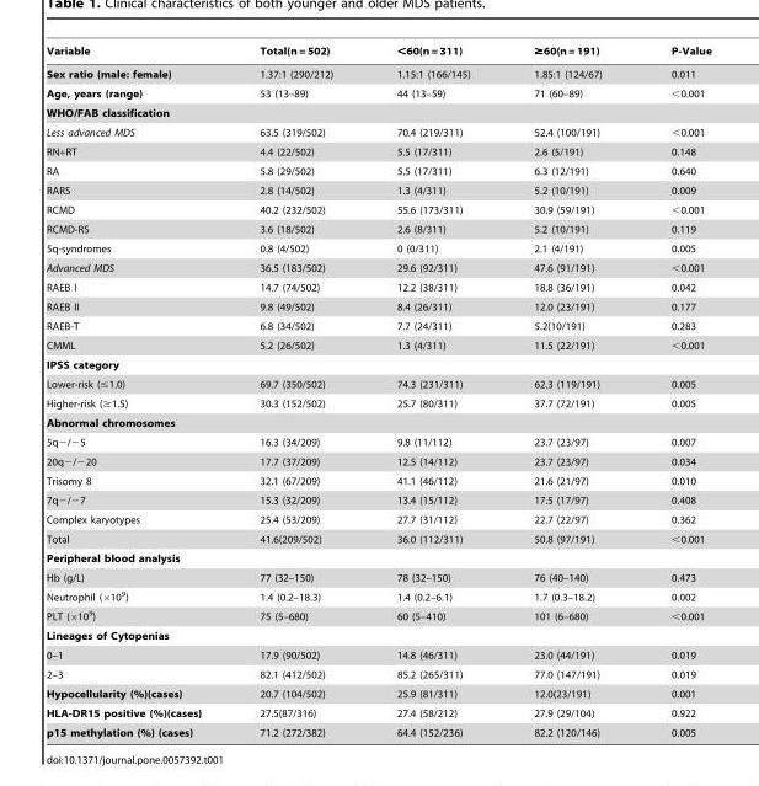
<table><thead><tr><td>Variable</td><td>Total(n = 502)</td><td>&lt;60(n = 311)</td><td>≥60(n = 191)</td><td>P-Value</td></tr></thead><tbody><tr><td>Sex ratio (male: female)</td><td>1.37:1 (290/212)</td><td>1.15:1 (166/145)</td><td>1.85:1 (124/67)</td><td>0.011</td></tr><tr><td>Age, years (range)</td><td>53 (13–89)</td><td>44 (13–59)</td><td>71 (60–89)</td><td>&lt;0.001</td></tr><tr><td colspan="5">WHO/FAB classification</td></tr><tr><td>Less advanced MDS</td><td>63.5 (319/502)</td><td>70.4 (219/311)</td><td>52.4 (100/191)</td><td>&lt;0.001</td></tr><tr><td>RN+RT</td><td>4.4 (22/502)</td><td>5.5 (17/311)</td><td>2.6 (5/191)</td><td>0.148</td></tr><tr><td>RA</td><td>5.8 (29/502)</td><td>5.5 (17/311)</td><td>6.3 (12/191)</td><td>0.640</td></tr><tr><td>RARS</td><td>2.8 (14/502)</td><td>1.3 (4/311)</td><td>5.2 (10/191)</td><td>0.009</td></tr><tr><td>RCMD</td><td>40.2 (232/502)</td><td>55.6 (173/311)</td><td>30.9 (59/191)</td><td>&lt;0.001</td></tr><tr><td>RCMD-RS</td><td>3.6 (18/502)</td><td>2.6 (8/311)</td><td>5.2 (10/191)</td><td>0.119</td></tr><tr><td>5q-syndromes</td><td>0.8 (4/502)</td><td>0 (0/311)</td><td>2.1 (4/191)</td><td>0.005</td></tr><tr><td>Advanced MDS</td><td>36.5 (183/502)</td><td>29.6 (92/311)</td><td>47.6 (91/191)</td><td>&lt;0.001</td></tr><tr><td>RAEB I</td><td>14.7 (74/502)</td><td>12.2 (38/311)</td><td>18.8 (36/191)</td><td>0.042</td></tr><tr><td>RAEB II</td><td>9.8 (49/502)</td><td>8.4 (26/311)</td><td>12.0 (23/191)</td><td>0.177</td></tr><tr><td>RAEB-T</td><td>6.8 (34/502)</td><td>7.7 (24/311)</td><td>5.2(10/191)</td><td>0.283</td></tr><tr><td>CMML</td><td>5.2 (26/502)</td><td>1.3 (4/311)</td><td>11.5 (22/191)</td><td>&lt;0.001</td></tr><tr><td colspan="5">IPSS category</td></tr><tr><td>Lower-risk (≤1.0)</td><td>69.7 (350/502)</td><td>74.3 (231/311)</td><td>62.3 (119/191)</td><td>0.005</td></tr><tr><td>Higher-risk (≥1.5)</td><td>30.3 (152/502)</td><td>25.7 (80/311)</td><td>37.7 (72/191)</td><td>0.005</td></tr><tr><td colspan="5">Abnormal chromosomes</td></tr><tr><td>5q−/−5</td><td>16.3 (34/209)</td><td>9.8 (11/112)</td><td>23.7 (23/97)</td><td>0.007</td></tr><tr><td>20q−/−20</td><td>17.7 (37/209)</td><td>12.5 (14/112)</td><td>23.7 (23/97)</td><td>0.034</td></tr><tr><td>Trisomy 8</td><td>32.1 (67/209)</td><td>41.1 (46/112)</td><td>21.6 (21/97)</td><td>0.010</td></tr><tr><td>7q−/−7</td><td>15.3 (32/209)</td><td>13.4 (15/112)</td><td>17.5 (17/97)</td><td>0.408</td></tr><tr><td>Complex karyotypes</td><td>25.4 (53/209)</td><td>27.7 (31/112)</td><td>22.7 (22/97)</td><td>0.362</td></tr><tr><td>Total</td><td>41.6(209/502)</td><td>36.0 (112/311)</td><td>50.8 (97/191)</td><td>&lt;0.001</td></tr><tr><td colspan="5">Peripheral blood analysis</td></tr><tr><td>Hb (g/L)</td><td>77 (32–150)</td><td>78 (32–150)</td><td>76 (40–140)</td><td>0.473</td></tr><tr><td>Neutrophil (×10<sup>9</sup>)</td><td>1.4 (0.2–18.3)</td><td>1.4 (0.2–6.1)</td><td>1.7 (0.3–18.2)</td><td>0.002</td></tr><tr><td>PLT (×10<sup>9</sup>)</td><td>75 (5–680)</td><td>60 (5–410)</td><td>101 (6–680)</td><td>&lt;0.001</td></tr><tr><td colspan="5">Lineages of Cytopenias</td></tr><tr><td>0–1</td><td>17.9 (90/502)</td><td>14.8 (46/311)</td><td>23.0 (44/191)</td><td>0.019</td></tr><tr><td>2–3</td><td>82.1 (412/502)</td><td>85.2 (265/311)</td><td>77.0 (147/191)</td><td>0.019</td></tr><tr><td>Hypocellularity (%)(cases)</td><td>20.7 (104/502)</td><td>25.9 (81/311)</td><td>12.0(23/191)</td><td>0.001</td></tr><tr><td>HLA-DR15 positive (%)(cases)</td><td>27.5(87/316)</td><td>27.4 (58/212)</td><td>27.9 (29/104)</td><td>0.922</td></tr><tr><td>p15 methylation (%) (cases)</td><td>71.2 (272/382)</td><td>64.4 (152/236)</td><td>82.2 (120/146)</td><td>0.005</td></tr></tbody></table>